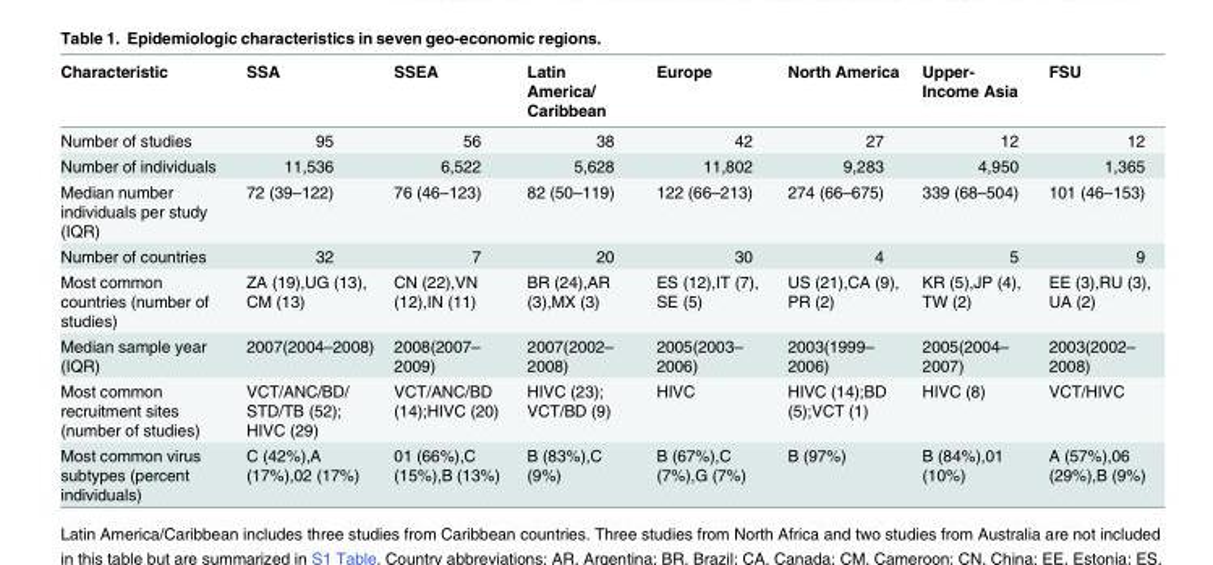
<table><thead><tr><td>Characteristic</td><td>SSA</td><td>SSEA</td><td>Latin America/ Caribbean</td><td>Europe</td><td>North America</td><td>Upper- Income Asia</td><td>FSU</td></tr></thead><tbody><tr><td>Number of studies</td><td>95</td><td>56</td><td>38</td><td>42</td><td>27</td><td>12</td><td>12</td></tr><tr><td>Number of individuals</td><td>11,536</td><td>6,522</td><td>5,628</td><td>11,802</td><td>9,283</td><td>4,950</td><td>1,365</td></tr><tr><td>Median number individuals per study (IQR)</td><td>72 (39–122)</td><td>76 (46–123)</td><td>82 (50–119)</td><td>122 (66–213)</td><td>274 (66–675)</td><td>339 (68–504)</td><td>101 (46–153)</td></tr><tr><td>Number of countries</td><td>32</td><td>7</td><td>20</td><td>30</td><td>4</td><td>5</td><td>9</td></tr><tr><td>Most common countries (number of studies)</td><td>ZA (19),UG (13), CM (13)</td><td>CN (22),VN (12),IN (11)</td><td>BR (24),AR (3),MX (3)</td><td>ES (12),IT (7), SE (5)</td><td>US (21),CA (9), PR (2)</td><td>KR (5),JP (4), TW (2)</td><td>EE (3),RU (3), UA (2)</td></tr><tr><td>Median sample year (IQR)</td><td>2007(2004–2008)</td><td>2008(2007– 2009)</td><td>2007(2002– 2008)</td><td>2005(2003– 2006)</td><td>2003(1999– 2006)</td><td>2005(2004– 2007)</td><td>2003(2002– 2008)</td></tr><tr><td>Most common recruitment sites (number of studies)</td><td>VCT/ANC/BD/ STD/TB (52); HIVC (29)</td><td>VCT/ANC/BD (14);HIVC (20)</td><td>HIVC (23); VCT/BD (9)</td><td>HIVC</td><td>HIVC (14);BD (5);VCT (1)</td><td>HIVC (8)</td><td>VCT/HIVC</td></tr><tr><td>Most common virus subtypes (percent individuals)</td><td>C (42%),A (17%),02 (17%)</td><td>01 (66%),C (15%),B (13%)</td><td>B (83%),C (9%)</td><td>B (67%),C (7%),G (7%)</td><td>B (97%)</td><td>B (84%),01 (10%)</td><td>A (57%),06 (29%),B (9%)</td></tr></tbody></table>